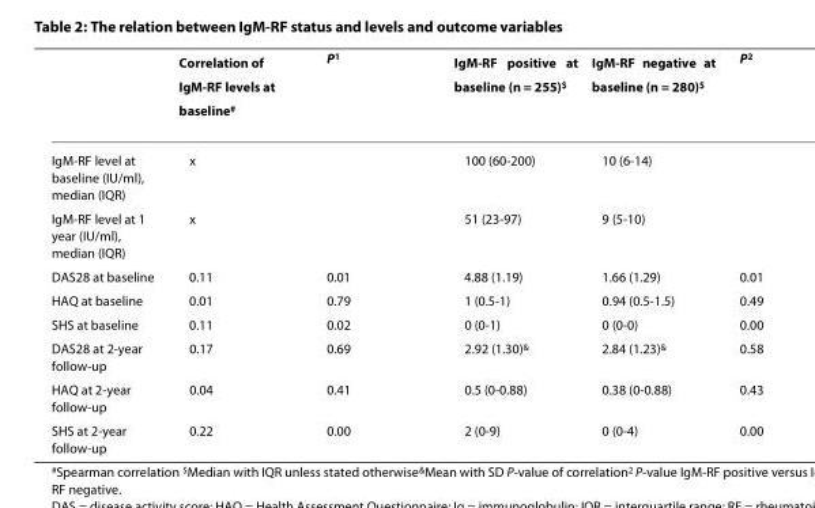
<table><thead><tr><td></td><td>Correlation of IgM-RF levels at baseline<sup>#</sup></td><td>P<sup>1</sup></td><td>IgM-RF positive at baseline (n = 255)<sup>$</sup></td><td>IgM-RF negative at baseline (n = 280)<sup>$</sup></td><td>P<sup>2</sup></td></tr></thead><tbody><tr><td>IgM-RF level at baseline (IU/ml), median (IQR)</td><td>x</td><td></td><td>100 (60-200)</td><td>10 (6-14)</td><td></td></tr><tr><td>IgM-RF level at 1 year (IU/ml), median (IQR)</td><td>x</td><td></td><td>51 (23-97)</td><td>9 (5-10)</td><td></td></tr><tr><td>DAS28 at baseline</td><td>0.11</td><td>0.01</td><td>4.88 (1.19)</td><td>1.66 (1.29)</td><td>0.01</td></tr><tr><td>HAQ at baseline</td><td>0.01</td><td>0.79</td><td>1 (0.5-1)</td><td>0.94 (0.5-1.5)</td><td>0.49</td></tr><tr><td>SHS at baseline</td><td>0.11</td><td>0.02</td><td>0 (0-1)</td><td>0 (0-0)</td><td>0.00</td></tr><tr><td>DAS28 at 2-year follow-up</td><td>0.17</td><td>0.69</td><td>2.92 (1.30)<sup>&amp;</sup></td><td>2.84 (1.23)<sup>&amp;</sup></td><td>0.58</td></tr><tr><td>HAQ at 2-year follow-up</td><td>0.04</td><td>0.41</td><td>0.5 (0-0.88)</td><td>0.38 (0-0.88)</td><td>0.43</td></tr><tr><td>SHS at 2-year follow-up</td><td>0.22</td><td>0.00</td><td>2 (0-9)</td><td>0 (0-4)</td><td>0.00</td></tr></tbody></table>